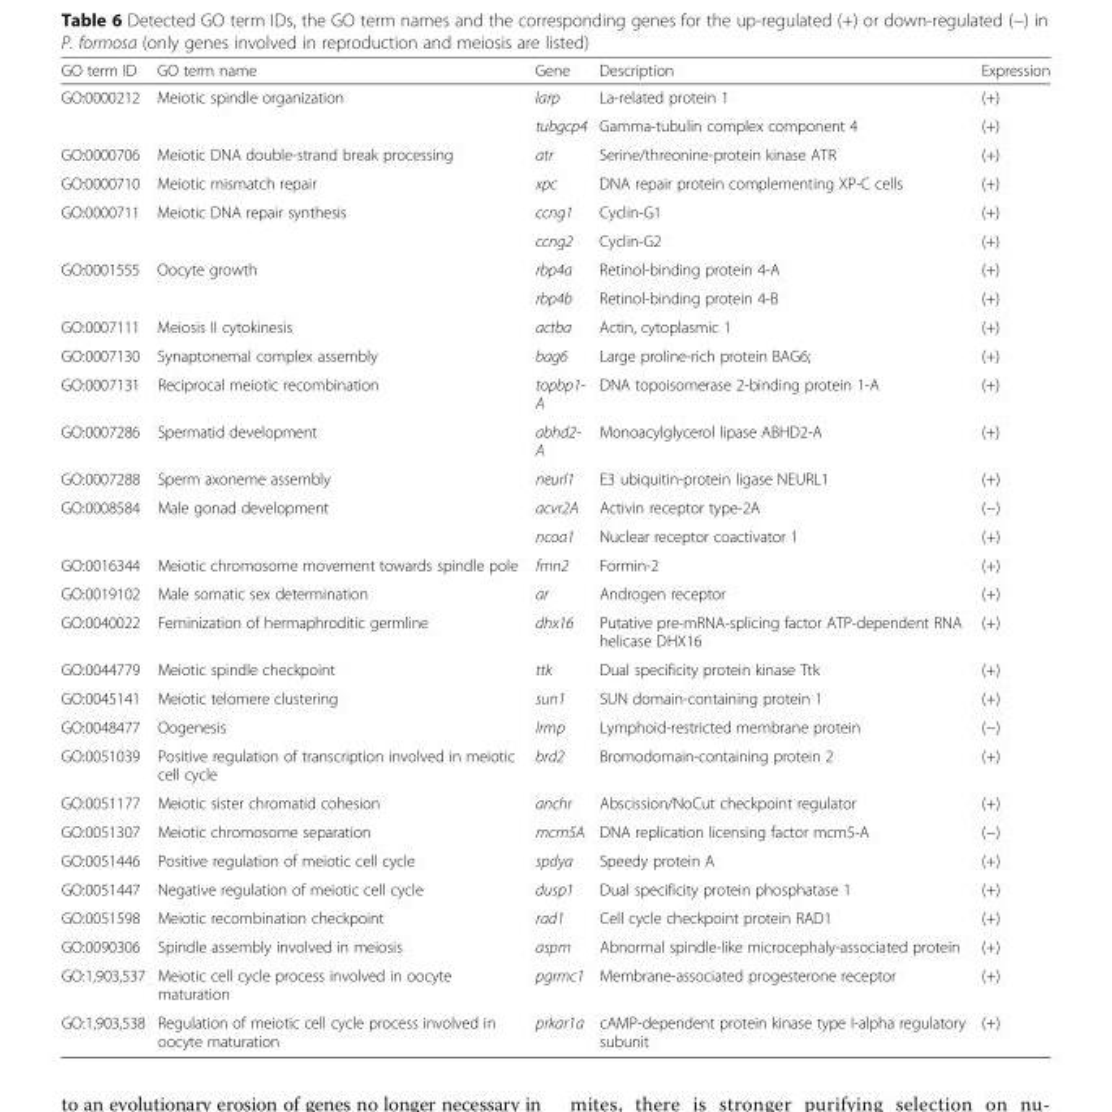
<table><thead><tr><td>GO term ID</td><td>GO term name</td><td>Gene</td><td>Description</td><td>Expression</td></tr></thead><tbody><tr><td rowspan="2">GO:0000212</td><td rowspan="2">Meiotic spindle organization</td><td>larp</td><td>La-related protein 1</td><td>(+)</td></tr><tr><td>tubgcp4</td><td>Gamma-tubulin complex component 4</td><td>(+)</td></tr><tr><td>GO:0000706</td><td>Meiotic DNA double-strand break processing</td><td>atr</td><td>Serine/threonine-protein kinase ATR</td><td>(+)</td></tr><tr><td>GO:0000710</td><td>Meiotic mismatch repair</td><td>xpc</td><td>DNA repair protein complementing XP-C cells</td><td>(+)</td></tr><tr><td rowspan="2">GO:0000711</td><td rowspan="2">Meiotic DNA repair synthesis</td><td>ccng1</td><td>Cyclin-G1</td><td>(+)</td></tr><tr><td>ccng2</td><td>Cyclin-G2</td><td>(+)</td></tr><tr><td rowspan="2">GO:0001555</td><td rowspan="2">Oocyte growth</td><td>rbp4a</td><td>Retinol-binding protein 4-A</td><td>(+)</td></tr><tr><td>rbp4b</td><td>Retinol-binding protein 4-B</td><td>(+)</td></tr><tr><td>GO:0007111</td><td>Meiosis II cytokinesis</td><td>actba</td><td>Actin, cytoplasmic 1</td><td>(+)</td></tr><tr><td>GO:0007130</td><td>Synaptonemal complex assembly</td><td>bag6</td><td>Large proline-rich protein BAG6;</td><td>(+)</td></tr><tr><td>GO:0007131</td><td>Reciprocal meiotic recombination</td><td>topbp1- A</td><td>DNA topoisomerase 2-binding protein 1-A</td><td>(+)</td></tr><tr><td>GO:0007286</td><td>Spermatid development</td><td>abhd2- A</td><td>Monoacylglycerol lipase ABHD2-A</td><td>(+)</td></tr><tr><td>GO:0007288</td><td>Sperm axoneme assembly</td><td>neurl1</td><td>E3 ubiquitin-protein ligase NEURL1</td><td>(+)</td></tr><tr><td rowspan="2">GO:0008584</td><td rowspan="2">Male gonad development</td><td>acvr2A</td><td>Activin receptor type-2A</td><td>(−)</td></tr><tr><td>ncoa1</td><td>Nuclear receptor coactivator 1</td><td>(+)</td></tr><tr><td>GO:0016344</td><td>Meiotic chromosome movement towards spindle pole</td><td>fmn2</td><td>Formin-2</td><td>(+)</td></tr><tr><td>GO:0019102</td><td>Male somatic sex determination</td><td>ar</td><td>Androgen receptor</td><td>(+)</td></tr><tr><td>GO:0040022</td><td>Feminization of hermaphroditic germline</td><td>dhx16</td><td>Putative pre-mRNA-splicing factor ATP-dependent RNA helicase DHX16</td><td>(+)</td></tr><tr><td>GO:0044779</td><td>Meiotic spindle checkpoint</td><td>ttk</td><td>Dual specificity protein kinase Ttk</td><td>(+)</td></tr><tr><td>GO:0045141</td><td>Meiotic telomere clustering</td><td>sun1</td><td>SUN domain-containing protein 1</td><td>(+)</td></tr><tr><td>GO:0048477</td><td>Oogenesis</td><td>lrmp</td><td>Lymphoid-restricted membrane protein</td><td>(−)</td></tr><tr><td>GO:0051039</td><td>Positive regulation of transcription involved in meiotic cell cycle</td><td>brd2</td><td>Bromodomain-containing protein 2</td><td>(+)</td></tr><tr><td>GO:0051177</td><td>Meiotic sister chromatid cohesion</td><td>anchr</td><td>Abscission/NoCut checkpoint regulator</td><td>(+)</td></tr><tr><td>GO:0051307</td><td>Meiotic chromosome separation</td><td>mcm5A</td><td>DNA replication licensing factor mcm5-A</td><td>(−)</td></tr><tr><td>GO:0051446</td><td>Positive regulation of meiotic cell cycle</td><td>spdya</td><td>Speedy protein A</td><td>(+)</td></tr><tr><td>GO:0051447</td><td>Negative regulation of meiotic cell cycle</td><td>dusp1</td><td>Dual specificity protein phosphatase 1</td><td>(+)</td></tr><tr><td>GO:0051598</td><td>Meiotic recombination checkpoint</td><td>rad1</td><td>Cell cycle checkpoint protein RAD1</td><td>(+)</td></tr><tr><td>GO:0090306</td><td>Spindle assembly involved in meiosis</td><td>aspm</td><td>Abnormal spindle-like microcephaly-associated protein</td><td>(+)</td></tr><tr><td>GO:1,903,537</td><td>Meiotic cell cycle process involved in oocyte maturation</td><td>pgrmc1</td><td>Membrane-associated progesterone receptor</td><td>(+)</td></tr><tr><td>GO:1,903,538</td><td>Regulation of meiotic cell cycle process involved in oocyte maturation</td><td>prkar1a</td><td>cAMP-dependent protein kinase type I-alpha regulatory subunit</td><td>(+)</td></tr></tbody></table>